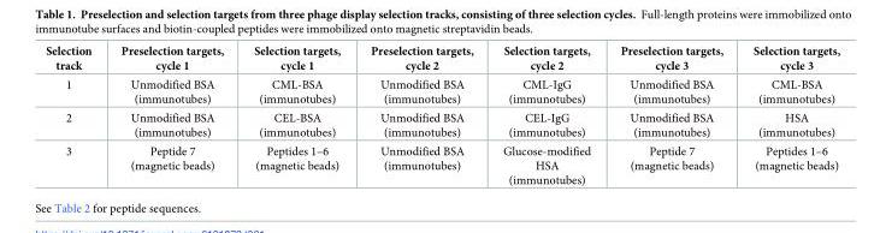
<table><thead><tr><td>Selection track</td><td>Preselection targets, cycle 1</td><td>Selection targets, cycle 1</td><td>Preselection targets, cycle 2</td><td>Selection targets, cycle 2</td><td>Preselection targets, cycle 3</td><td>Selection targets, cycle 3</td></tr></thead><tbody><tr><td>1</td><td>Unmodified BSA (immunotubes)</td><td>CML-BSA (immunotubes)</td><td>Unmodified BSA (immunotubes)</td><td>CML-IgG (immunotubes)</td><td>Unmodified BSA (immunotubes)</td><td>CML-BSA (immunotubes)</td></tr><tr><td>2</td><td>Unmodified BSA (immunotubes)</td><td>CEL-BSA (immunotubes)</td><td>Unmodified BSA (immunotubes)</td><td>CEL-IgG (immunotubes)</td><td>Unmodified BSA (immunotubes)</td><td>HSA (immunotubes)</td></tr><tr><td>3</td><td>Peptide 7 (magnetic beads)</td><td>Peptides 1–6 (magnetic beads)</td><td>Unmodified BSA (immunotubes)</td><td>Glucose-modified HSA (immunotubes)</td><td>Peptide 7 (magnetic beads)</td><td>Peptides 1–6 (magnetic beads)</td></tr></tbody></table>